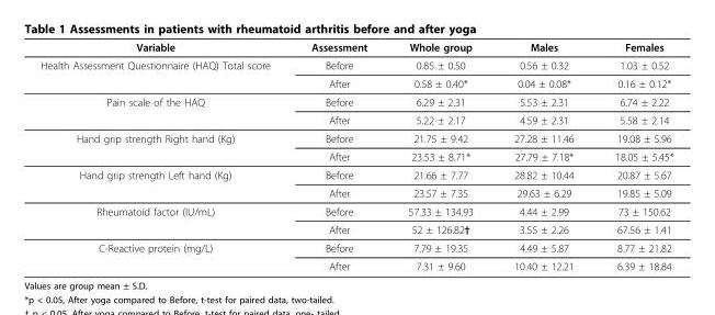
<table><thead><tr><td>Variable</td><td>Assessment</td><td>Whole group</td><td>Males</td><td>Females</td></tr></thead><tbody><tr><td rowspan="2">Health Assessment Questionnaire (HAQ) Total score</td><td>Before</td><td>0.85 ± 0.50</td><td>0.56 ± 0.32</td><td>1.03 ± 0.52</td></tr><tr><td>After</td><td>0.58 ± 0.40*</td><td>0.04 ± 0.08*</td><td>0.16 ± 0.12*</td></tr><tr><td rowspan="2">Pain scale of the HAQ</td><td>Before</td><td>6.29 ± 2.31</td><td>5.53 ± 2.31</td><td>6.74 ± 2.22</td></tr><tr><td>After</td><td>5.22 ± 2.17</td><td>4.59 ± 2.31</td><td>5.58 ± 2.14</td></tr><tr><td rowspan="2">Hand grip strength Right hand (Kg)</td><td>Before</td><td>21.75 ± 9.42</td><td>27.28 ± 11.46</td><td>19.08 ± 5.96</td></tr><tr><td>After</td><td>23.53 ± 8.71*</td><td>27.79 ± 7.18*</td><td>18.05 ± 5.45*</td></tr><tr><td rowspan="2">Hand grip strength Left hand (Kg)</td><td>Before</td><td>21.66 ± 7.77</td><td>28.82 ± 10.44</td><td>20.87 ± 5.67</td></tr><tr><td>After</td><td>23.57 ± 7.35</td><td>29.63 ± 6.29</td><td>19.85 ± 5.09</td></tr><tr><td rowspan="2">Rheumatoid factor (IU/mL)</td><td>Before</td><td>57.33 ± 134.93</td><td>4.44 ± 2.99</td><td>73 ± 150.62</td></tr><tr><td>After</td><td>52 ± 126.82†</td><td>3.55 ± 2.26</td><td>67.56 ± 1.41</td></tr><tr><td rowspan="2">C-Reactive protein (mg/L)</td><td>Before</td><td>7.79 ± 19.35</td><td>4.49 ± 5.87</td><td>8.77 ± 21.82</td></tr><tr><td>After</td><td>7.31 ± 9.60</td><td>10.40 ± 12.21</td><td>6.39 ± 18.84</td></tr></tbody></table>